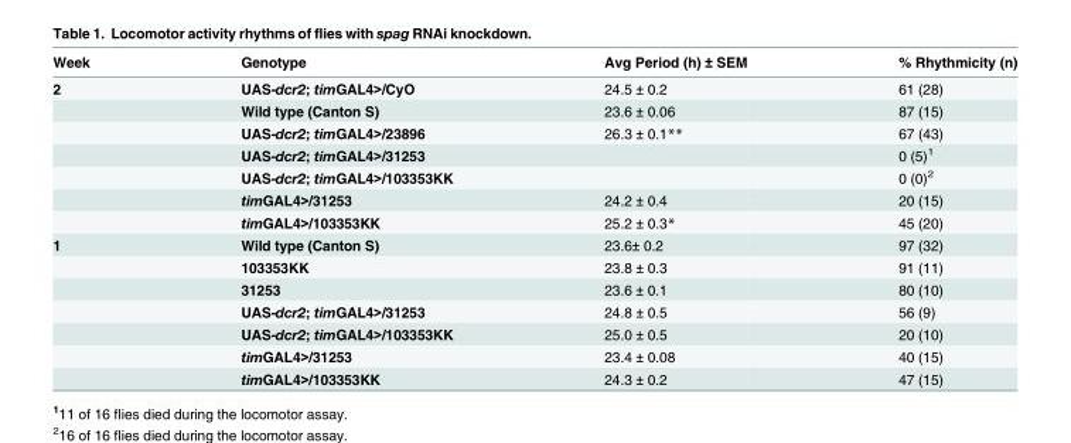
<table><thead><tr><td>Week</td><td>Genotype</td><td>Avg Period (h) ± SEM</td><td>% Rhythmicity (n)</td></tr></thead><tbody><tr><td rowspan="7">2</td><td>UAS-dcr2; timGAL4&gt;/CyO</td><td>24.5 ± 0.2</td><td>61 (28)</td></tr><tr><td>Wild type (Canton S)</td><td>23.6 ± 0.06</td><td>87 (15)</td></tr><tr><td>UAS-dcr2; timGAL4&gt;/23896</td><td>26.3 ± 0.1**</td><td>67 (43)</td></tr><tr><td>UAS-dcr2; timGAL4&gt;/31253</td><td></td><td>0 (5)<sup>1</sup></td></tr><tr><td>UAS-dcr2; timGAL4&gt;/103353KK</td><td></td><td>0 (0)<sup>2</sup></td></tr><tr><td>timGAL4&gt;/31253</td><td>24.2 ± 0.4</td><td>20 (15)</td></tr><tr><td>timGAL4&gt;/103353KK</td><td>25.2 ± 0.3*</td><td>45 (20)</td></tr><tr><td rowspan="7">1</td><td>Wild type (Canton S)</td><td>23.6± 0.2</td><td>97 (32)</td></tr><tr><td>103353KK</td><td>23.8 ± 0.3</td><td>91 (11)</td></tr><tr><td>31253</td><td>23.6 ± 0.1</td><td>80 (10)</td></tr><tr><td>UAS-dcr2; timGAL4&gt;/31253</td><td>24.8 ± 0.5</td><td>56 (9)</td></tr><tr><td>UAS-dcr2; timGAL4&gt;/103353KK</td><td>25.0 ± 0.5</td><td>20 (10)</td></tr><tr><td>timGAL4&gt;/31253</td><td>23.4 ± 0.08</td><td>40 (15)</td></tr><tr><td>timGAL4&gt;/103353KK</td><td>24.3 ± 0.2</td><td>47 (15)</td></tr></tbody></table>